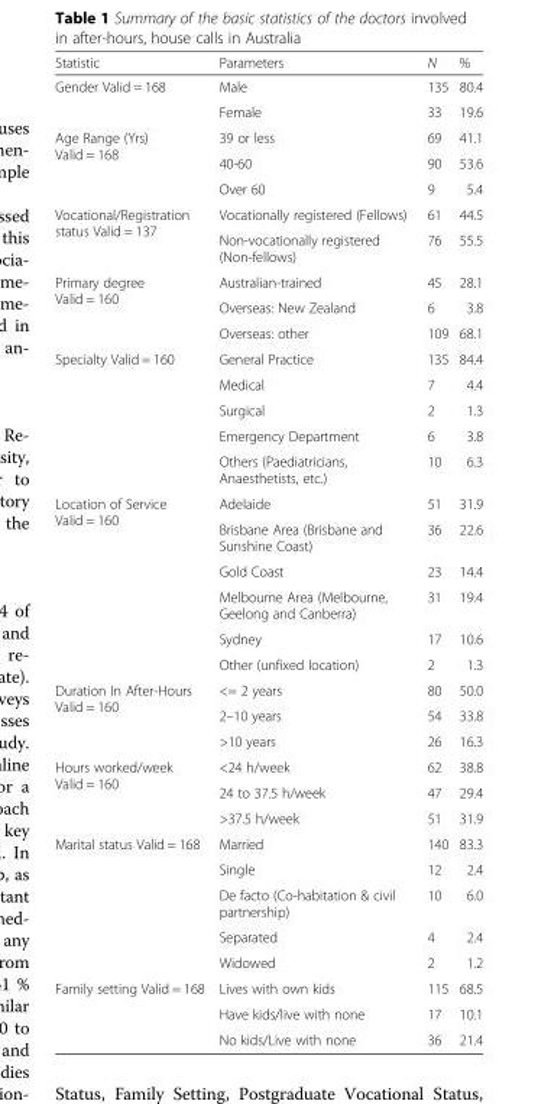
<table><thead><tr><td>Statistic</td><td>Parameters</td><td>N</td><td>%</td></tr></thead><tbody><tr><td rowspan="2">Gender Valid = 168</td><td>Male</td><td>135</td><td>80.4</td></tr><tr><td>Female</td><td>33</td><td>19.6</td></tr><tr><td rowspan="3">Age Range (Yrs) Valid = 168</td><td>39 or less</td><td>69</td><td>41.1</td></tr><tr><td>40-60</td><td>90</td><td>53.6</td></tr><tr><td>Over 60</td><td>9</td><td>5.4</td></tr><tr><td rowspan="2">Vocational/Registration status Valid = 137</td><td>Vocationally registered (Fellows)</td><td>61</td><td>44.5</td></tr><tr><td>Non-vocationally registered (Non-fellows)</td><td>76</td><td>55.5</td></tr><tr><td rowspan="3">Primary degree Valid = 160</td><td>Australian-trained</td><td>45</td><td>28.1</td></tr><tr><td>Overseas: New Zealand</td><td>6</td><td>3.8</td></tr><tr><td>Overseas: other</td><td>109</td><td>68.1</td></tr><tr><td rowspan="5">Specialty Valid = 160</td><td>General Practice</td><td>135</td><td>84.4</td></tr><tr><td>Medical</td><td>7</td><td>4.4</td></tr><tr><td>Surgical</td><td>2</td><td>1.3</td></tr><tr><td>Emergency Department</td><td>6</td><td>3.8</td></tr><tr><td>Others (Paediatricians, Anaesthetists, etc.)</td><td>10</td><td>6.3</td></tr><tr><td rowspan="6">Location of Service Valid = 160</td><td>Adelaide</td><td>51</td><td>31.9</td></tr><tr><td>Brisbane Area (Brisbane and Sunshine Coast)</td><td>36</td><td>22.6</td></tr><tr><td>Gold Coast</td><td>23</td><td>14.4</td></tr><tr><td>Melbourne Area (Melbourne, Geelong and Canberra)</td><td>31</td><td>19.4</td></tr><tr><td>Sydney</td><td>17</td><td>10.6</td></tr><tr><td>Other (unfixed location)</td><td>2</td><td>1.3</td></tr><tr><td rowspan="3">Duration In After-Hours Valid = 160</td><td>&lt;= 2 years</td><td>80</td><td>50.0</td></tr><tr><td>2–10 years</td><td>54</td><td>33.8</td></tr><tr><td>&gt;10 years</td><td>26</td><td>16.3</td></tr><tr><td rowspan="3">Hours worked/week Valid = 160</td><td>&lt;24 h/week</td><td>62</td><td>38.8</td></tr><tr><td>24 to 37.5 h/week</td><td>47</td><td>29.4</td></tr><tr><td>&gt;37.5 h/week</td><td>51</td><td>31.9</td></tr><tr><td rowspan="5">Marital status Valid = 168</td><td>Married</td><td>140</td><td>83.3</td></tr><tr><td>Single</td><td>12</td><td>2.4</td></tr><tr><td>De facto (Co-habitation &amp; civil partnership)</td><td>10</td><td>6.0</td></tr><tr><td>Separated</td><td>4</td><td>2.4</td></tr><tr><td>Widowed</td><td>2</td><td>1.2</td></tr><tr><td rowspan="3">Family setting Valid = 168</td><td>Lives with own kids</td><td>115</td><td>68.5</td></tr><tr><td>Have kids/live with none</td><td>17</td><td>10.1</td></tr><tr><td>No kids/Live with none</td><td>36</td><td>21.4</td></tr></tbody></table>